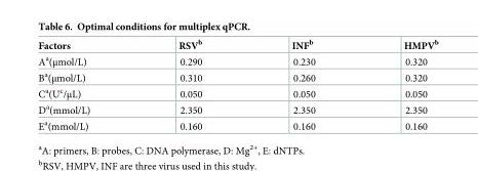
<table><thead><tr><td>Factors</td><td>RSV<sup>b</sup></td><td>INF<sup>b</sup></td><td>HMPV<sup>b</sup></td></tr></thead><tbody><tr><td>A<sup>a</sup>(μmol/L)</td><td>0.290</td><td>0.230</td><td>0.320</td></tr><tr><td>B<sup>a</sup>(μmol/L)</td><td>0.310</td><td>0.260</td><td>0.320</td></tr><tr><td>C<sup>a</sup>(U<sup>c</sup>/μL)</td><td>0.050</td><td>0.050</td><td>0.050</td></tr><tr><td>D<sup>a</sup>(mmol/L)</td><td>2.350</td><td>2.350</td><td>2.350</td></tr><tr><td>E<sup>a</sup>(mmol/L)</td><td>0.160</td><td>0.160</td><td>0.160</td></tr></tbody></table>